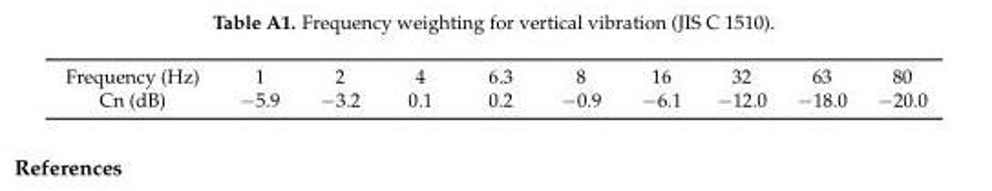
<table><tbody><tr><td>Frequency (Hz)</td><td>1</td><td>2</td><td>4</td><td>6.3</td><td>8</td><td>16</td><td>32</td><td>63</td><td>80</td></tr><tr><td>Cn (dB)</td><td>−5.9</td><td>−3.2</td><td>0.1</td><td>0.2</td><td>−0.9</td><td>−6.1</td><td>−12.0</td><td>−18.0</td><td>−20.0</td></tr></tbody></table>